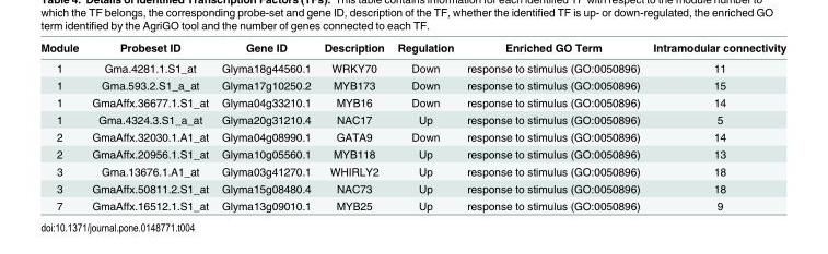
<table><thead><tr><td>Module</td><td>Probeset ID</td><td>Gene ID</td><td>Description</td><td>Regulation</td><td>Enriched GO Term</td><td>Intramodular connectivity</td></tr></thead><tbody><tr><td>1</td><td>Gma.4281.1.S1_at</td><td>Glyma18g44560.1</td><td>WRKY70</td><td>Down</td><td>response to stimulus (GO:0050896)</td><td>11</td></tr><tr><td>1</td><td>Gma.593.2.S1_a_at</td><td>Glyma17g10250.2</td><td>MYB173</td><td>Down</td><td>response to stimulus (GO:0050896)</td><td>15</td></tr><tr><td>1</td><td>GmaAffx.36677.1.S1_at</td><td>Glyma04g33210.1</td><td>MYB16</td><td>Down</td><td>response to stimulus (GO:0050896)</td><td>14</td></tr><tr><td>1</td><td>Gma.4324.3.S1_a_at</td><td>Glyma20g31210.4</td><td>NAC17</td><td>Up</td><td>response to stimulus (GO:0050896)</td><td>5</td></tr><tr><td>2</td><td>GmaAffx.32030.1.A1_at</td><td>Glyma04g08990.1</td><td>GATA9</td><td>Down</td><td>response to stimulus (GO:0050896)</td><td>14</td></tr><tr><td>2</td><td>GmaAffx.20956.1.S1_at</td><td>Glyma10g05560.1</td><td>MYB118</td><td>Up</td><td>response to stimulus (GO:0050896)</td><td>13</td></tr><tr><td>3</td><td>Gma.13676.1.A1_at</td><td>Glyma03g41270.1</td><td>WHIRLY2</td><td>Up</td><td>response to stimulus (GO:0050896)</td><td>18</td></tr><tr><td>3</td><td>GmaAffx.50811.2.S1_at</td><td>Glyma15g08480.4</td><td>NAC73</td><td>Up</td><td>response to stimulus (GO:0050896)</td><td>18</td></tr><tr><td>7</td><td>GmaAffx.16512.1.S1_at</td><td>Glyma13g09010.1</td><td>MYB25</td><td>Up</td><td>response to stimulus (GO:0050896)</td><td>9</td></tr></tbody></table>